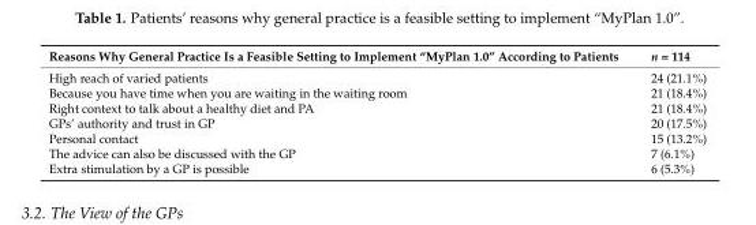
<table><thead><tr><td>Reasons Why General Practice Is a Feasible Setting to Implement “MyPlan 1.0” According to Patients</td><td>n = 114</td></tr></thead><tbody><tr><td>High reach of varied patients</td><td>24 (21.1%)</td></tr><tr><td>Because you have time when you are waiting in the waiting room</td><td>21 (18.4%)</td></tr><tr><td>Right context to talk about a healthy diet and PA</td><td>21 (18.4%)</td></tr><tr><td>GPs’ authority and trust in GP</td><td>20 (17.5%)</td></tr><tr><td>Personal contact</td><td>15 (13.2%)</td></tr><tr><td>The advice can also be discussed with the GP</td><td>7 (6.1%)</td></tr><tr><td>Extra stimulation by a GP is possible</td><td>6 (5.3%)</td></tr></tbody></table>